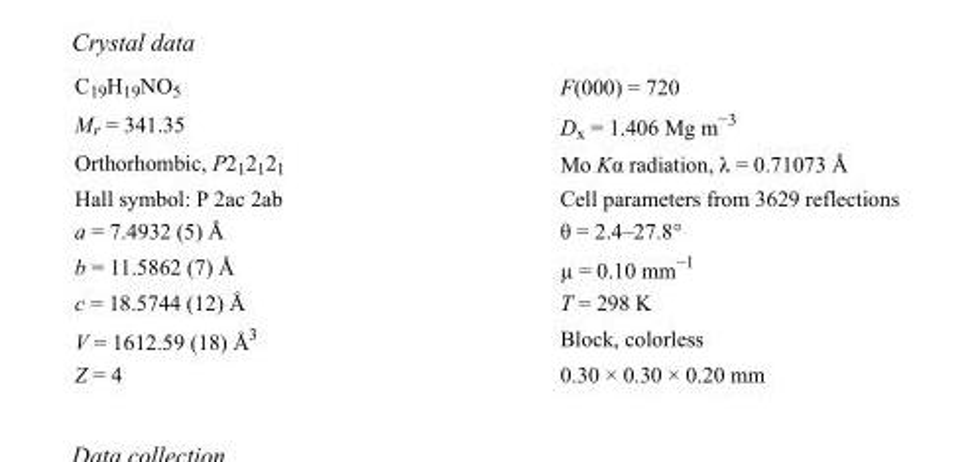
<table><tbody><tr><td>C<sub>19</sub>H<sub>19</sub>NO<sub>5</sub></td><td>F(000) = 720</td></tr><tr><td>M<sub>r</sub> = 341.35</td><td>D<sub>x</sub> = 1.406 Mg m<sup>−3</sup></td></tr><tr><td>Orthorhombic, P2<sub>1</sub>2<sub>1</sub>2<sub>1</sub></td><td>Mo Kα radiation, λ = 0.71073 Å</td></tr><tr><td>Hall symbol: P 2ac 2ab</td><td>Cell parameters from 3629 reflections</td></tr><tr><td>a = 7.4932 (5) Å</td><td>θ = 2.4–27.8°</td></tr><tr><td>b = 11.5862 (7) Å</td><td>µ = 0.10 mm<sup>−1</sup></td></tr><tr><td>c = 18.5744 (12) Å</td><td>T = 298 K</td></tr><tr><td>V = 1612.59 (18) Å<sup>3</sup></td><td>Block, colorless</td></tr><tr><td>Z = 4</td><td>0.30 × 0.30 × 0.20 mm</td></tr></tbody></table>